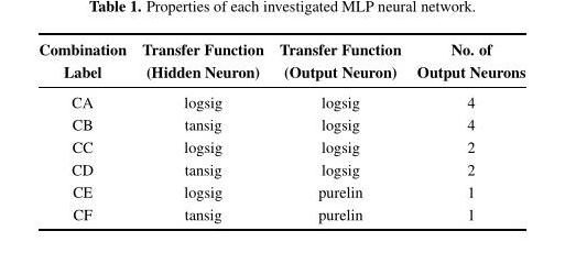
<table><thead><tr><td>Combination Label</td><td>Transfer Function (Hidden Neuron)</td><td>Transfer Function (Output Neuron)</td><td>No. of Output Neurons</td></tr></thead><tbody><tr><td>CA</td><td>logsig</td><td>logsig</td><td>4</td></tr><tr><td>CB</td><td>tansig</td><td>logsig</td><td>4</td></tr><tr><td>CC</td><td>logsig</td><td>logsig</td><td>2</td></tr><tr><td>CD</td><td>tansig</td><td>logsig</td><td>2</td></tr><tr><td>CE</td><td>logsig</td><td>purelin</td><td>1</td></tr><tr><td>CF</td><td>tansig</td><td>purelin</td><td>1</td></tr></tbody></table>